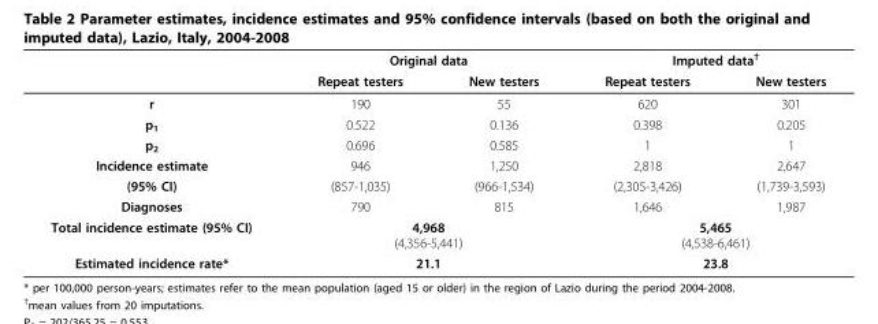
<table><thead><tr><td rowspan="2"></td><td colspan="2">Original data</td><td colspan="2">Imputed data<sup>†</sup></td></tr><tr><td>Repeat testers</td><td>New testers</td><td>Repeat testers</td><td>New testers</td></tr></thead><tbody><tr><td>r</td><td>190</td><td>55</td><td>620</td><td>301</td></tr><tr><td>p<sub>1</sub></td><td>0.522</td><td>0.136</td><td>0.398</td><td>0.205</td></tr><tr><td>p<sub>2</sub></td><td>0.696</td><td>0.585</td><td>1</td><td>1</td></tr><tr><td>Incidence estimate</td><td>946</td><td>1,250</td><td>2,818</td><td>2,647</td></tr><tr><td>(95% CI)</td><td>(857-1,035)</td><td>(966-1,534)</td><td>(2,305-3,426)</td><td>(1,739-3,593)</td></tr><tr><td>Diagnoses</td><td>790</td><td>815</td><td>1,646</td><td>1,987</td></tr><tr><td>Total incidence estimate (95% CI)</td><td colspan="2">4,968 (4,356-5,441)</td><td colspan="2">5,465 (4,538-6,461)</td></tr><tr><td>Estimated incidence rate*</td><td colspan="2">21.1</td><td colspan="2">23.8</td></tr></tbody></table>